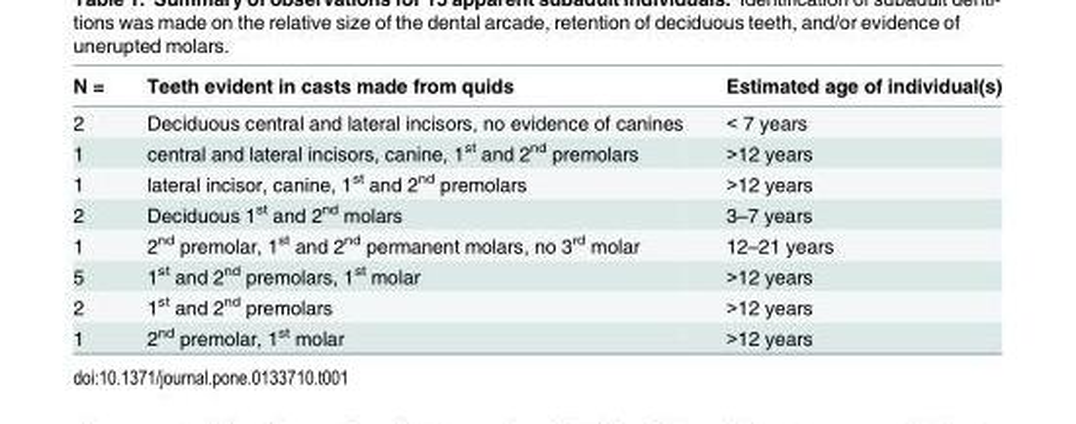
<table><thead><tr><td>N =</td><td>Teeth evident in casts made from quids</td><td>Estimated age of individual(s)</td></tr></thead><tbody><tr><td>2</td><td>Deciduous central and lateral incisors, no evidence of canines</td><td>&lt; 7 years</td></tr><tr><td>1</td><td>central and lateral incisors, canine, 1<sup>st</sup> and 2<sup>nd</sup> premolars</td><td>&gt;12 years</td></tr><tr><td>1</td><td>lateral incisor, canine, 1<sup>st</sup> and 2<sup>nd</sup> premolars</td><td>&gt;12 years</td></tr><tr><td>2</td><td>Deciduous 1<sup>st</sup> and 2<sup>nd</sup> molars</td><td>3–7 years</td></tr><tr><td>1</td><td>2<sup>nd</sup> premolar, 1<sup>st</sup> and 2<sup>nd</sup> permanent molars, no 3<sup>rd</sup> molar</td><td>12–21 years</td></tr><tr><td>5</td><td>1<sup>st</sup> and 2<sup>nd</sup> premolars, 1<sup>st</sup> molar</td><td>&gt;12 years</td></tr><tr><td>2</td><td>1<sup>st</sup> and 2<sup>nd</sup> premolars</td><td>&gt;12 years</td></tr><tr><td>1</td><td>2<sup>nd</sup> premolar, 1<sup>st</sup> molar</td><td>&gt;12 years</td></tr></tbody></table>